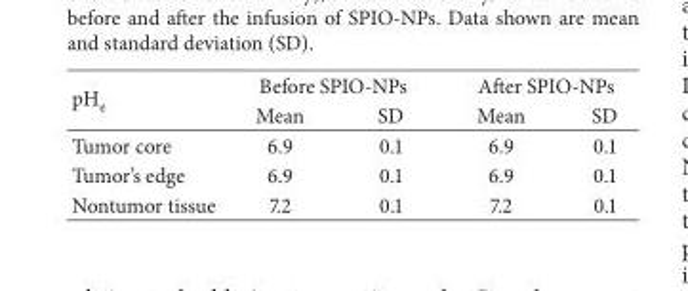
<table><thead><tr><td rowspan="2">pH<sub>e</sub></td><td colspan="2">Before SPIO-NPs</td><td colspan="2">After SPIO-NPs</td></tr><tr><td>Mean</td><td>SD</td><td>Mean</td><td>SD</td></tr></thead><tbody><tr><td>Tumor core</td><td>6.9</td><td>0.1</td><td>6.9</td><td>0.1</td></tr><tr><td>Tumor’s edge</td><td>6.9</td><td>0.1</td><td>6.9</td><td>0.1</td></tr><tr><td>Nontumor tissue</td><td>7.2</td><td>0.1</td><td>7.2</td><td>0.1</td></tr></tbody></table>